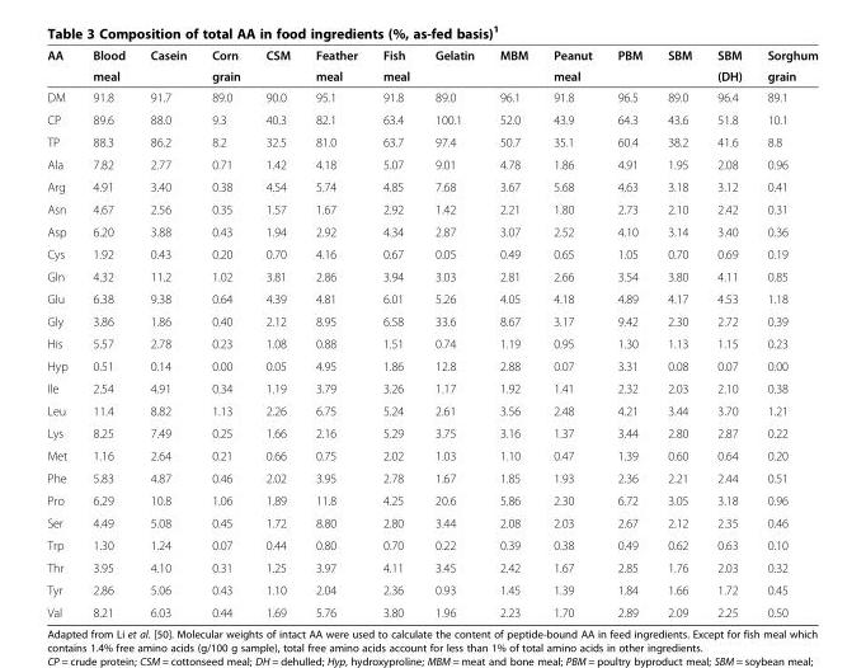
<table><thead><tr><td rowspan="2">AA</td><td rowspan="2">Blood meal</td><td rowspan="2">Casein</td><td rowspan="2">Corn grain</td><td rowspan="2">CSM</td><td rowspan="2">Feather meal</td><td rowspan="2">Fish meal</td><td rowspan="2">Gelatin</td><td rowspan="2">MBM</td><td rowspan="2">Peanut meal</td><td rowspan="2">PBM</td><td rowspan="2">SBM</td><td rowspan="2">SBM (DH)</td><td rowspan="2">Sorghum grain</td></tr><tr></tr></thead><tbody><tr><td>DM</td><td>91.8</td><td>91.7</td><td>89.0</td><td>90.0</td><td>95.1</td><td>91.8</td><td>89.0</td><td>96.1</td><td>91.8</td><td>96.5</td><td>89.0</td><td>96.4</td><td>89.1</td></tr><tr><td>CP</td><td>89.6</td><td>88.0</td><td>9.3</td><td>40.3</td><td>82.1</td><td>63.4</td><td>100.1</td><td>52.0</td><td>43.9</td><td>64.3</td><td>43.6</td><td>51.8</td><td>10.1</td></tr><tr><td>TP</td><td>88.3</td><td>86.2</td><td>8.2</td><td>32.5</td><td>81.0</td><td>63.7</td><td>97.4</td><td>50.7</td><td>35.1</td><td>60.4</td><td>38.2</td><td>41.6</td><td>8.8</td></tr><tr><td>Ala</td><td>7.82</td><td>2.77</td><td>0.71</td><td>1.42</td><td>4.18</td><td>5.07</td><td>9.01</td><td>4.78</td><td>1.86</td><td>4.91</td><td>1.95</td><td>2.08</td><td>0.96</td></tr><tr><td>Arg</td><td>4.91</td><td>3.40</td><td>0.38</td><td>4.54</td><td>5.74</td><td>4.85</td><td>7.68</td><td>3.67</td><td>5.68</td><td>4.63</td><td>3.18</td><td>3.12</td><td>0.41</td></tr><tr><td>Asn</td><td>4.67</td><td>2.56</td><td>0.35</td><td>1.57</td><td>1.67</td><td>2.92</td><td>1.42</td><td>2.21</td><td>1.80</td><td>2.73</td><td>2.10</td><td>2.42</td><td>0.31</td></tr><tr><td>Asp</td><td>6.20</td><td>3.88</td><td>0.43</td><td>1.94</td><td>2.92</td><td>4.34</td><td>2.87</td><td>3.07</td><td>2.52</td><td>4.10</td><td>3.14</td><td>3.40</td><td>0.36</td></tr><tr><td>Cys</td><td>1.92</td><td>0.43</td><td>0.20</td><td>0.70</td><td>4.16</td><td>0.67</td><td>0.05</td><td>0.49</td><td>0.65</td><td>1.05</td><td>0.70</td><td>0.69</td><td>0.19</td></tr><tr><td>Gln</td><td>4.32</td><td>11.2</td><td>1.02</td><td>3.81</td><td>2.86</td><td>3.94</td><td>3.03</td><td>2.81</td><td>2.66</td><td>3.54</td><td>3.80</td><td>4.11</td><td>0.85</td></tr><tr><td>Glu</td><td>6.38</td><td>9.38</td><td>0.64</td><td>4.39</td><td>4.81</td><td>6.01</td><td>5.26</td><td>4.05</td><td>4.18</td><td>4.89</td><td>4.17</td><td>4.53</td><td>1.18</td></tr><tr><td>Gly</td><td>3.86</td><td>1.86</td><td>0.40</td><td>2.12</td><td>8.95</td><td>6.58</td><td>33.6</td><td>8.67</td><td>3.17</td><td>9.42</td><td>2.30</td><td>2.72</td><td>0.39</td></tr><tr><td>His</td><td>5.57</td><td>2.78</td><td>0.23</td><td>1.08</td><td>0.88</td><td>1.51</td><td>0.74</td><td>1.19</td><td>0.95</td><td>1.30</td><td>1.13</td><td>1.15</td><td>0.23</td></tr><tr><td>Hyp</td><td>0.51</td><td>0.14</td><td>0.00</td><td>0.05</td><td>4.95</td><td>1.86</td><td>12.8</td><td>2.88</td><td>0.07</td><td>3.31</td><td>0.08</td><td>0.07</td><td>0.00</td></tr><tr><td>Ile</td><td>2.54</td><td>4.91</td><td>0.34</td><td>1.19</td><td>3.79</td><td>3.26</td><td>1.17</td><td>1.92</td><td>1.41</td><td>2.32</td><td>2.03</td><td>2.10</td><td>0.38</td></tr><tr><td>Leu</td><td>11.4</td><td>8.82</td><td>1.13</td><td>2.26</td><td>6.75</td><td>5.24</td><td>2.61</td><td>3.56</td><td>2.48</td><td>4.21</td><td>3.44</td><td>3.70</td><td>1.21</td></tr><tr><td>Lys</td><td>8.25</td><td>7.49</td><td>0.25</td><td>1.66</td><td>2.16</td><td>5.29</td><td>3.75</td><td>3.16</td><td>1.37</td><td>3.44</td><td>2.80</td><td>2.87</td><td>0.22</td></tr><tr><td>Met</td><td>1.16</td><td>2.64</td><td>0.21</td><td>0.66</td><td>0.75</td><td>2.02</td><td>1.03</td><td>1.10</td><td>0.47</td><td>1.39</td><td>0.60</td><td>0.64</td><td>0.20</td></tr><tr><td>Phe</td><td>5.83</td><td>4.87</td><td>0.46</td><td>2.02</td><td>3.95</td><td>2.78</td><td>1.67</td><td>1.85</td><td>1.93</td><td>2.36</td><td>2.21</td><td>2.44</td><td>0.51</td></tr><tr><td>Pro</td><td>6.29</td><td>10.8</td><td>1.06</td><td>1.89</td><td>11.8</td><td>4.25</td><td>20.6</td><td>5.86</td><td>2.30</td><td>6.72</td><td>3.05</td><td>3.18</td><td>0.96</td></tr><tr><td>Ser</td><td>4.49</td><td>5.08</td><td>0.45</td><td>1.72</td><td>8.80</td><td>2.80</td><td>3.44</td><td>2.08</td><td>2.03</td><td>2.67</td><td>2.12</td><td>2.35</td><td>0.46</td></tr><tr><td>Trp</td><td>1.30</td><td>1.24</td><td>0.07</td><td>0.44</td><td>0.80</td><td>0.70</td><td>0.22</td><td>0.39</td><td>0.38</td><td>0.49</td><td>0.62</td><td>0.63</td><td>0.10</td></tr><tr><td>Thr</td><td>3.95</td><td>4.10</td><td>0.31</td><td>1.25</td><td>3.97</td><td>4.11</td><td>3.45</td><td>2.42</td><td>1.67</td><td>2.85</td><td>1.76</td><td>2.03</td><td>0.32</td></tr><tr><td>Tyr</td><td>2.86</td><td>5.06</td><td>0.43</td><td>1.10</td><td>2.04</td><td>2.36</td><td>0.93</td><td>1.45</td><td>1.39</td><td>1.84</td><td>1.66</td><td>1.72</td><td>0.45</td></tr><tr><td>Val</td><td>8.21</td><td>6.03</td><td>0.44</td><td>1.69</td><td>5.76</td><td>3.80</td><td>1.96</td><td>2.23</td><td>1.70</td><td>2.89</td><td>2.09</td><td>2.25</td><td>0.50</td></tr></tbody></table>